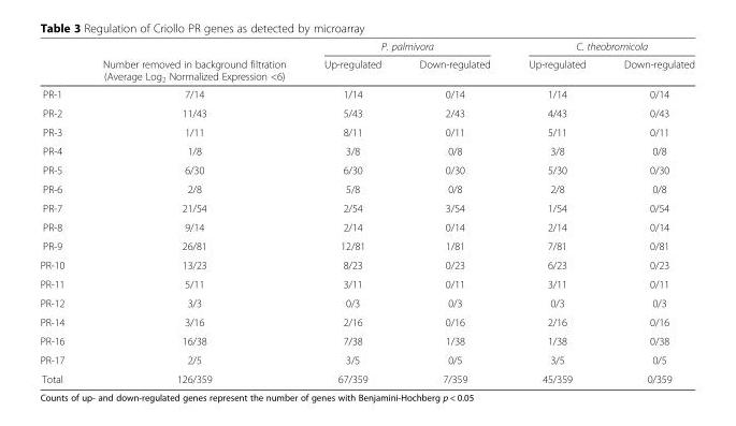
<table><thead><tr><td rowspan="2"></td><td rowspan="2">Number removed in background filtration (Average Log<sub>2</sub> Normalized Expression &lt;6)</td><td colspan="2">P. palmivora</td><td colspan="2">C. theobromicola</td></tr><tr><td>Up-regulated</td><td>Down-regulated</td><td>Up-regulated</td><td>Down-regulated</td></tr></thead><tbody><tr><td>PR-1</td><td>7/14</td><td>1/14</td><td>0/14</td><td>1/14</td><td>0/14</td></tr><tr><td>PR-2</td><td>11/43</td><td>5/43</td><td>2/43</td><td>4/43</td><td>0/43</td></tr><tr><td>PR-3</td><td>1/11</td><td>8/11</td><td>0/11</td><td>5/11</td><td>0/11</td></tr><tr><td>PR-4</td><td>1/8</td><td>3/8</td><td>0/8</td><td>3/8</td><td>0/8</td></tr><tr><td>PR-5</td><td>6/30</td><td>6/30</td><td>0/30</td><td>5/30</td><td>0/30</td></tr><tr><td>PR-6</td><td>2/8</td><td>5/8</td><td>0/8</td><td>2/8</td><td>0/8</td></tr><tr><td>PR-7</td><td>21/54</td><td>2/54</td><td>3/54</td><td>1/54</td><td>0/54</td></tr><tr><td>PR-8</td><td>9/14</td><td>2/14</td><td>0/14</td><td>2/14</td><td>0/14</td></tr><tr><td>PR-9</td><td>26/81</td><td>12/81</td><td>1/81</td><td>7/81</td><td>0/81</td></tr><tr><td>PR-10</td><td>13/23</td><td>8/23</td><td>0/23</td><td>6/23</td><td>0/23</td></tr><tr><td>PR-11</td><td>5/11</td><td>3/11</td><td>0/11</td><td>3/11</td><td>0/11</td></tr><tr><td>PR-12</td><td>3/3</td><td>0/3</td><td>0/3</td><td>0/3</td><td>0/3</td></tr><tr><td>PR-14</td><td>3/16</td><td>2/16</td><td>0/16</td><td>2/16</td><td>0/16</td></tr><tr><td>PR-16</td><td>16/38</td><td>7/38</td><td>1/38</td><td>1/38</td><td>0/38</td></tr><tr><td>PR-17</td><td>2/5</td><td>3/5</td><td>0/5</td><td>3/5</td><td>0/5</td></tr><tr><td>Total</td><td>126/359</td><td>67/359</td><td>7/359</td><td>45/359</td><td>0/359</td></tr></tbody></table>